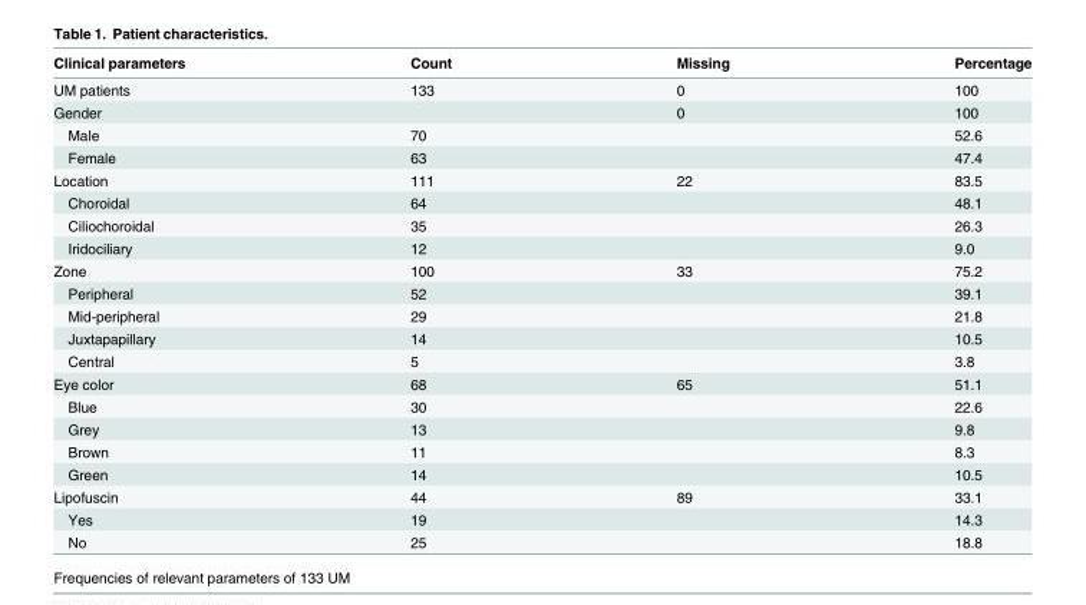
<table><thead><tr><td>Clinical parameters</td><td>Count</td><td>Missing</td><td>Percentage</td></tr></thead><tbody><tr><td>UM patients</td><td>133</td><td>0</td><td>100</td></tr><tr><td>Gender</td><td></td><td>0</td><td>100</td></tr><tr><td>Male</td><td>70</td><td></td><td>52.6</td></tr><tr><td>Female</td><td>63</td><td></td><td>47.4</td></tr><tr><td>Location</td><td>111</td><td>22</td><td>83.5</td></tr><tr><td>Choroidal</td><td>64</td><td></td><td>48.1</td></tr><tr><td>Ciliochoroidal</td><td>35</td><td></td><td>26.3</td></tr><tr><td>Iridociliary</td><td>12</td><td></td><td>9.0</td></tr><tr><td>Zone</td><td>100</td><td>33</td><td>75.2</td></tr><tr><td>Peripheral</td><td>52</td><td></td><td>39.1</td></tr><tr><td>Mid-peripheral</td><td>29</td><td></td><td>21.8</td></tr><tr><td>Juxtapapillary</td><td>14</td><td></td><td>10.5</td></tr><tr><td>Central</td><td>5</td><td></td><td>3.8</td></tr><tr><td>Eye color</td><td>68</td><td>65</td><td>51.1</td></tr><tr><td>Blue</td><td>30</td><td></td><td>22.6</td></tr><tr><td>Grey</td><td>13</td><td></td><td>9.8</td></tr><tr><td>Brown</td><td>11</td><td></td><td>8.3</td></tr><tr><td>Green</td><td>14</td><td></td><td>10.5</td></tr><tr><td>Lipofuscin</td><td>44</td><td>89</td><td>33.1</td></tr><tr><td>Yes</td><td>19</td><td></td><td>14.3</td></tr><tr><td>No</td><td>25</td><td></td><td>18.8</td></tr></tbody></table>